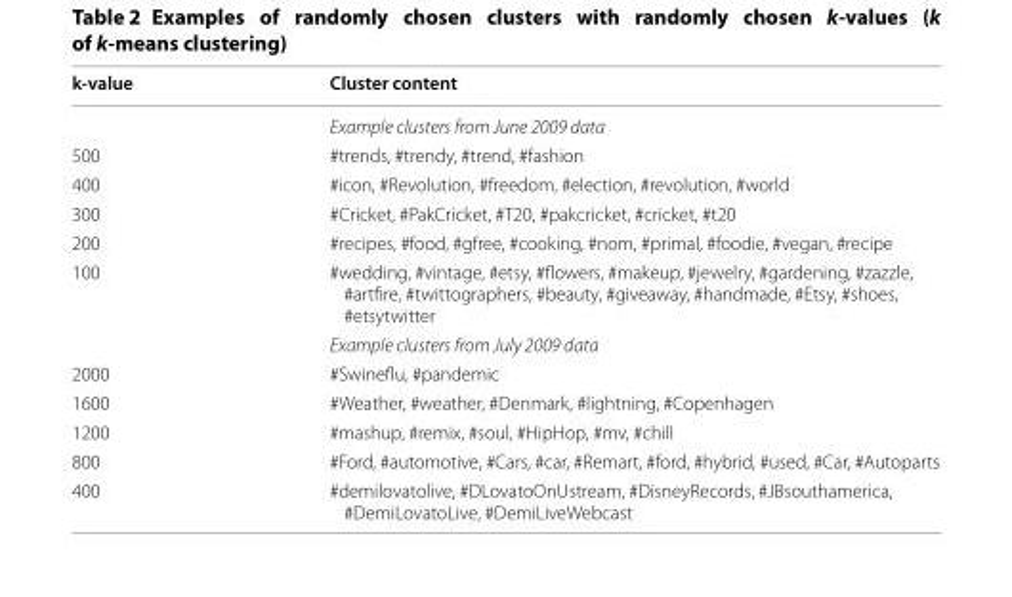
<table><thead><tr><td>k-value</td><td>Cluster content</td></tr></thead><tbody><tr><td></td><td>Example clusters from June 2009 data</td></tr><tr><td>500</td><td>#trends, #trendy, #trend, #fashion</td></tr><tr><td>400</td><td>#icon, #Revolution, #freedom, #election, #revolution, #world</td></tr><tr><td>300</td><td>#Cricket, #PakCricket, #T20, #pakcricket, #cricket, #t20</td></tr><tr><td>200</td><td>#recipes, #food, #gfree, #cooking, #nom, #primal, #foodie, #vegan, #recipe</td></tr><tr><td rowspan="2">100</td><td>#wedding, #vintage, #etsy, #flowers, #makeup, #jewelry, #gardening, #zazzle, #artfire, #twittographers, #beauty, #giveaway, #handmade, #Etsy, #shoes, #etsytwitter</td></tr><tr><td>Example clusters from July 2009 data</td></tr><tr><td>2000</td><td>#Swineflu, #pandemic</td></tr><tr><td>1600</td><td>#Weather, #weather, #Denmark, #lightning, #Copenhagen</td></tr><tr><td>1200</td><td>#mashup, #remix, #soul, #HipHop, #mv, #chill</td></tr><tr><td>800</td><td>#Ford, #automotive, #Cars, #car, #Remart, #ford, #hybrid, #used, #Car, #Autoparts</td></tr><tr><td>400</td><td>#demilovatolive, #DLovatoOnUstream, #DisneyRecords, #JBsouthamerica, #DemiLovatoLive, #DemiLiveWebcast</td></tr></tbody></table>